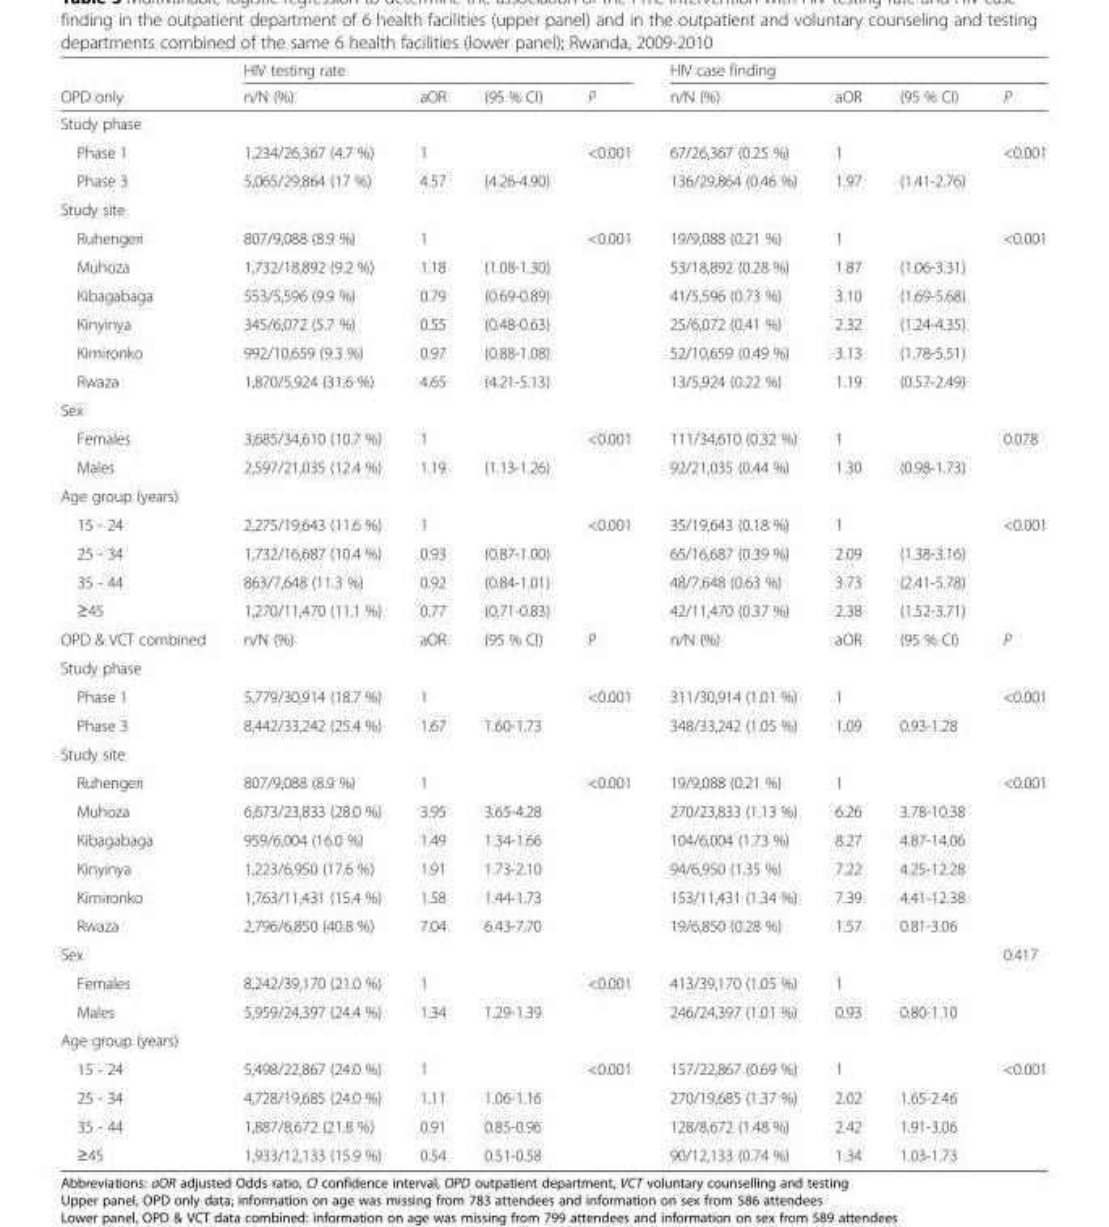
<table><thead><tr><td rowspan="2">OPD only</td><td colspan="4">HIV testing rate</td><td colspan="4">HIV case finding</td></tr><tr><td>n/N (%)</td><td>aOR</td><td>(95 % CI)</td><td>P</td><td>n/N (%)</td><td>aOR</td><td>(95 % CI)</td><td>P</td></tr></thead><tbody><tr><td colspan="9">Study phase</td></tr><tr><td>Phase 1</td><td>1,234/26,367 (4.7 %)</td><td>1</td><td></td><td>&lt;0.001</td><td>67/26,367 (0.25 %)</td><td>1</td><td></td><td>&lt;0.001</td></tr><tr><td>Phase 3</td><td>5,065/29,864 (17 %)</td><td>4.57</td><td>(4.26-4.90)</td><td></td><td>136/29,864 (0.46 %)</td><td>1.97</td><td>(1.41-2.76)</td><td></td></tr><tr><td colspan="9">Study site</td></tr><tr><td>Ruhengeri</td><td>807/9,088 (8.9 %)</td><td>1</td><td></td><td>&lt;0.001</td><td>19/9,088 (0.21 %)</td><td>1</td><td></td><td>&lt;0.001</td></tr><tr><td>Muhoza</td><td>1,732/18,892 (9.2 %)</td><td>1.18</td><td>(1.08-1.30)</td><td></td><td>53/18,892 (0.28 %)</td><td>1.87</td><td>(1.06-3.31)</td><td></td></tr><tr><td>Kibagabaga</td><td>553/5,596 (9.9 %)</td><td>0.79</td><td>(0.69-0.89)</td><td></td><td>41/5,596 (0.73 %)</td><td>3.10</td><td>(1.69-5.68)</td><td></td></tr><tr><td>Kinyinya</td><td>345/6,072 (5.7 %)</td><td>0.55</td><td>(0.48-0.63)</td><td></td><td>25/6,072 (0.41 %)</td><td>2.32</td><td>(1.24-4.35)</td><td></td></tr><tr><td>Kimironko</td><td>992/10,659 (9.3 %)</td><td>0.97</td><td>(0.88-1.08)</td><td></td><td>52/10,659 (0.49 %)</td><td>3.13</td><td>(1.78-5.51)</td><td></td></tr><tr><td>Rwaza</td><td>1,870/5,924 (31.6 %)</td><td>4.65</td><td>(4.21-5.13)</td><td></td><td>13/5,924 (0.22 %)</td><td>1.19</td><td>(0.57-2.49)</td><td></td></tr><tr><td colspan="9">Sex</td></tr><tr><td>Females</td><td>3,685/34,610 (10.7 %)</td><td>1</td><td></td><td>&lt;0.001</td><td>111/34,610 (0.32 %)</td><td>1</td><td></td><td>0.078</td></tr><tr><td>Males</td><td>2,597/21,035 (12.4 %)</td><td>1.19</td><td>(1.13-1.26)</td><td></td><td>92/21,035 (0.44 %)</td><td>1.30</td><td>(0.98-1.73)</td><td></td></tr><tr><td colspan="9">Age group (years)</td></tr><tr><td>15 - 24</td><td>2,275/19,643 (11.6 %)</td><td>1</td><td></td><td>&lt;0.001</td><td>35/19,643 (0.18 %)</td><td>1</td><td></td><td>&lt;0.001</td></tr><tr><td>25 - 34</td><td>1,732/16,687 (10.4 %)</td><td>0.93</td><td>(0.87-1.00)</td><td></td><td>65/16,687 (0.39 %)</td><td>2.09</td><td>(1.38-3.16)</td><td></td></tr><tr><td>35 - 44</td><td>863/7,648 (11.3 %)</td><td>0.92</td><td>(0.84-1.01)</td><td></td><td>48/7,648 (0.63 %)</td><td>3.73</td><td>(2.41-5.78)</td><td></td></tr><tr><td>≥45</td><td>1,270/11,470 (11.1 %)</td><td>0.77</td><td>(0.71-0.83)</td><td></td><td>42/11,470 (0.37 %)</td><td>2.38</td><td>(1.52-3.71)</td><td></td></tr><tr><td>OPD &amp; VCT combined</td><td>n/N (%)</td><td>aOR</td><td>(95 % CI)</td><td>P</td><td>n/N (%)</td><td>aOR</td><td>(95 % CI)</td><td>P</td></tr><tr><td colspan="9">Study phase</td></tr><tr><td>Phase 1</td><td>5,779/30,914 (18.7 %)</td><td>1</td><td></td><td>&lt;0.001</td><td>311/30,914 (1.01 %)</td><td>1</td><td></td><td>&lt;0.001</td></tr><tr><td>Phase 3</td><td>8,442/33,242 (25.4 %)</td><td>1.67</td><td>1.60-1.73</td><td></td><td>348/33,242 (1.05 %)</td><td>1.09</td><td>0.93-1.28</td><td></td></tr><tr><td colspan="9">Study site</td></tr><tr><td>Ruhengeri</td><td>807/9,088 (8.9 %)</td><td>1</td><td></td><td>&lt;0.001</td><td>19/9,088 (0.21 %)</td><td>1</td><td></td><td>&lt;0.001</td></tr><tr><td>Muhoza</td><td>6,673/23,833 (28.0 %)</td><td>3.95</td><td>3.65-4.28</td><td></td><td>270/23,833 (1.13 %)</td><td>6.26</td><td>3.78-10.38</td><td></td></tr><tr><td>Kibagabaga</td><td>959/6,004 (16.0 %)</td><td>1.49</td><td>1.34-1.66</td><td></td><td>104/6,004 (1.73 %)</td><td>8.27</td><td>4.87-14.06</td><td></td></tr><tr><td>Kinyinya</td><td>1,223/6,950 (17.6 %)</td><td>1.91</td><td>1.73-2.10</td><td></td><td>94/6,950 (1.35 %)</td><td>7.22</td><td>4.25-12.28</td><td></td></tr><tr><td>Kimironko</td><td>1,763/11,431 (15.4 %)</td><td>1.58</td><td>1.44-1.73</td><td></td><td>153/11,431 (1.34 %)</td><td>7.39</td><td>4.41-12.38</td><td></td></tr><tr><td>Rwaza</td><td>2,796/6,850 (40.8 %)</td><td>7.04</td><td>6.43-7.70</td><td></td><td>19/6,850 (0.28 %)</td><td>1.57</td><td>0.81-3.06</td><td></td></tr><tr><td>Sex</td><td></td><td></td><td></td><td></td><td></td><td></td><td></td><td>0.417</td></tr><tr><td>Females</td><td>8,242/39,170 (21.0 %)</td><td>1</td><td></td><td>&lt;0.001</td><td>413/39,170 (1.05 %)</td><td>1</td><td></td><td></td></tr><tr><td>Males</td><td>5,959/24,397 (24.4 %)</td><td>1.34</td><td>1.29-1.39</td><td></td><td>246/24,397 (1.01 %)</td><td>0.93</td><td>0.80-1.10</td><td></td></tr><tr><td colspan="9">Age group (years)</td></tr><tr><td>15 - 24</td><td>5,498/22,867 (24.0 %)</td><td>1</td><td></td><td>&lt;0.001</td><td>157/22,867 (0.69 %)</td><td>1</td><td></td><td>&lt;0.001</td></tr><tr><td>25 - 34</td><td>4,728/19,685 (24.0 %)</td><td>1.11</td><td>1.06-1.16</td><td></td><td>270/19,685 (1.37 %)</td><td>2.02</td><td>1.65-2.46</td><td></td></tr><tr><td>35 - 44</td><td>1,887/8,672 (21.8 %)</td><td>0.91</td><td>0.85-0.96</td><td></td><td>128/8,672 (1.48 %)</td><td>2.42</td><td>1.91-3.06</td><td></td></tr><tr><td>≥45</td><td>1,933/12,133 (15.9 %)</td><td>0.54</td><td>0.51-0.58</td><td></td><td>90/12,133 (0.74 %)</td><td>1.34</td><td>1.03-1.73</td><td></td></tr></tbody></table>